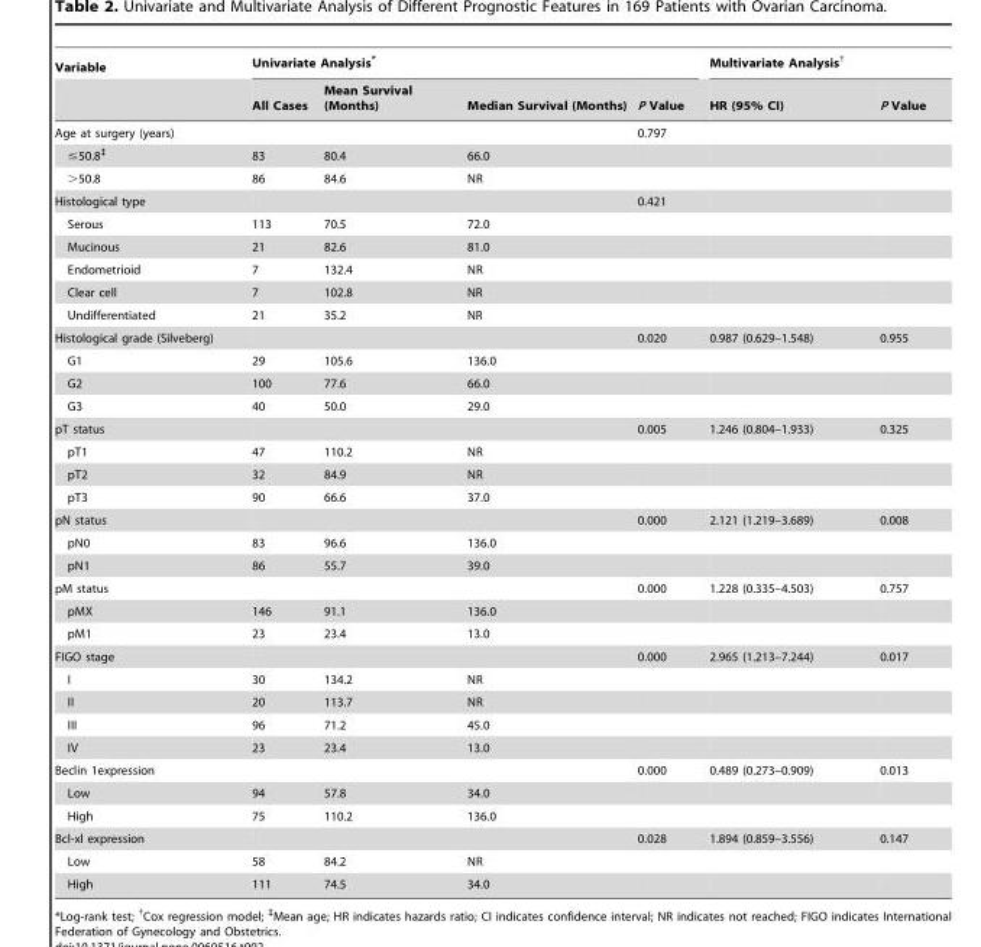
<table><thead><tr><td rowspan="2">Variable</td><td colspan="4">Univariate Analysis*</td><td colspan="2">Multivariate Analysis<sup>†</sup></td></tr><tr><td>All Cases</td><td>Mean Survival (Months)</td><td>Median Survival (Months)</td><td>P Value</td><td>HR (95% CI)</td><td>P Value</td></tr></thead><tbody><tr><td>Age at surgery (years)</td><td></td><td></td><td></td><td>0.797</td><td></td><td></td></tr><tr><td>≤50.8<sup>‡</sup></td><td>83</td><td>80.4</td><td>66.0</td><td></td><td></td><td></td></tr><tr><td>&gt;50.8</td><td>86</td><td>84.6</td><td>NR</td><td></td><td></td><td></td></tr><tr><td>Histological type</td><td></td><td></td><td></td><td>0.421</td><td></td><td></td></tr><tr><td>Serous</td><td>113</td><td>70.5</td><td>72.0</td><td></td><td></td><td></td></tr><tr><td>Mucinous</td><td>21</td><td>82.6</td><td>81.0</td><td></td><td></td><td></td></tr><tr><td>Endometrioid</td><td>7</td><td>132.4</td><td>NR</td><td></td><td></td><td></td></tr><tr><td>Clear cell</td><td>7</td><td>102.8</td><td>NR</td><td></td><td></td><td></td></tr><tr><td>Undifferentiated</td><td>21</td><td>35.2</td><td>NR</td><td></td><td></td><td></td></tr><tr><td>Histological grade (Silveberg)</td><td></td><td></td><td></td><td>0.020</td><td>0.987 (0.629–1.548)</td><td>0.955</td></tr><tr><td>G1</td><td>29</td><td>105.6</td><td>136.0</td><td></td><td></td><td></td></tr><tr><td>G2</td><td>100</td><td>77.6</td><td>66.0</td><td></td><td></td><td></td></tr><tr><td>G3</td><td>40</td><td>50.0</td><td>29.0</td><td></td><td></td><td></td></tr><tr><td>pT status</td><td></td><td></td><td></td><td>0.005</td><td>1.246 (0.804–1.933)</td><td>0.325</td></tr><tr><td>pT1</td><td>47</td><td>110.2</td><td>NR</td><td></td><td></td><td></td></tr><tr><td>pT2</td><td>32</td><td>84.9</td><td>NR</td><td></td><td></td><td></td></tr><tr><td>pT3</td><td>90</td><td>66.6</td><td>37.0</td><td></td><td></td><td></td></tr><tr><td>pN status</td><td></td><td></td><td></td><td>0.000</td><td>2.121 (1.219–3.689)</td><td>0.008</td></tr><tr><td>pN0</td><td>83</td><td>96.6</td><td>136.0</td><td></td><td></td><td></td></tr><tr><td>pN1</td><td>86</td><td>55.7</td><td>39.0</td><td></td><td></td><td></td></tr><tr><td>pM status</td><td></td><td></td><td></td><td>0.000</td><td>1.228 (0.335–4.503)</td><td>0.757</td></tr><tr><td>pMX</td><td>146</td><td>91.1</td><td>136.0</td><td></td><td></td><td></td></tr><tr><td>pM1</td><td>23</td><td>23.4</td><td>13.0</td><td></td><td></td><td></td></tr><tr><td>FIGO stage</td><td></td><td></td><td></td><td>0.000</td><td>2.965 (1.213–7.244)</td><td>0.017</td></tr><tr><td>I</td><td>30</td><td>134.2</td><td>NR</td><td></td><td></td><td></td></tr><tr><td>II</td><td>20</td><td>113.7</td><td>NR</td><td></td><td></td><td></td></tr><tr><td>III</td><td>96</td><td>71.2</td><td>45.0</td><td></td><td></td><td></td></tr><tr><td>IV</td><td>23</td><td>23.4</td><td>13.0</td><td></td><td></td><td></td></tr><tr><td>Beclin 1expression</td><td></td><td></td><td></td><td>0.000</td><td>0.489 (0.273–0.909)</td><td>0.013</td></tr><tr><td>Low</td><td>94</td><td>57.8</td><td>34.0</td><td></td><td></td><td></td></tr><tr><td>High</td><td>75</td><td>110.2</td><td>136.0</td><td></td><td></td><td></td></tr><tr><td>Bcl-xl expression</td><td></td><td></td><td></td><td>0.028</td><td>1.894 (0.859–3.556)</td><td>0.147</td></tr><tr><td>Low</td><td>58</td><td>84.2</td><td>NR</td><td></td><td></td><td></td></tr><tr><td>High</td><td>111</td><td>74.5</td><td>34.0</td><td></td><td></td><td></td></tr></tbody></table>